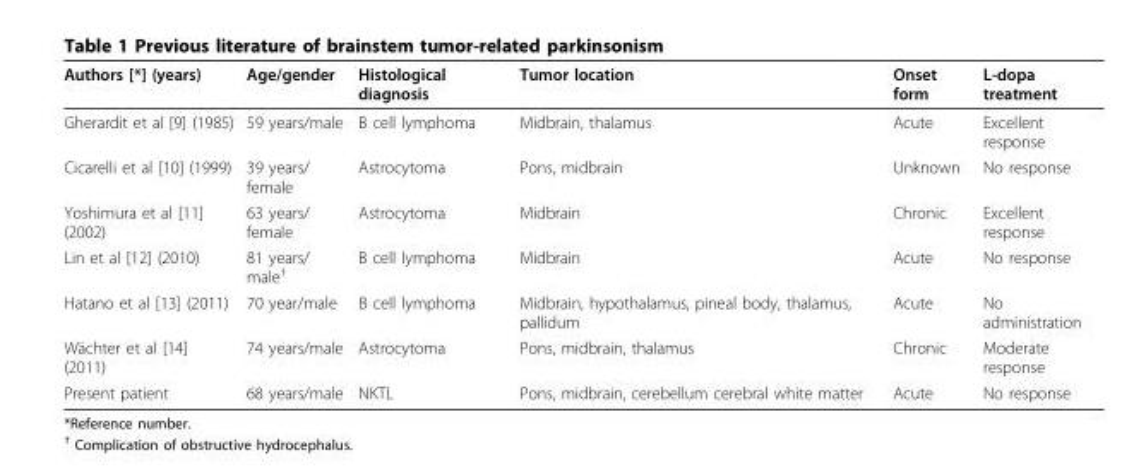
<table><thead><tr><td>Authors [*] (years)</td><td>Age/gender</td><td>Histological diagnosis</td><td>Tumor location</td><td>Onset form</td><td>L-dopa treatment</td></tr></thead><tbody><tr><td>Gherardit et al [9] (1985)</td><td>59 years/male</td><td>B cell lymphoma</td><td>Midbrain, thalamus</td><td>Acute</td><td>Excellent response</td></tr><tr><td>Cicarelli et al [10] (1999)</td><td>39 years/ female</td><td>Astrocytoma</td><td>Pons, midbrain</td><td>Unknown</td><td>No response</td></tr><tr><td>Yoshimura et al [11] (2002)</td><td>63 years/ female</td><td>Astrocytoma</td><td>Midbrain</td><td>Chronic</td><td>Excellent response</td></tr><tr><td>Lin et al [12] (2010)</td><td>81 years/ male<sup>†</sup></td><td>B cell lymphoma</td><td>Midbrain</td><td>Acute</td><td>No response</td></tr><tr><td>Hatano et al [13] (2011)</td><td>70 year/male</td><td>B cell lymphoma</td><td>Midbrain, hypothalamus, pineal body, thalamus, pallidum</td><td>Acute</td><td>No administration</td></tr><tr><td>Wächter et al [14] (2011)</td><td>74 years/male</td><td>Astrocytoma</td><td>Pons, midbrain, thalamus</td><td>Chronic</td><td>Moderate response</td></tr><tr><td>Present patient</td><td>68 years/male</td><td>NKTL</td><td>Pons, midbrain, cerebellum cerebral white matter</td><td>Acute</td><td>No response</td></tr></tbody></table>